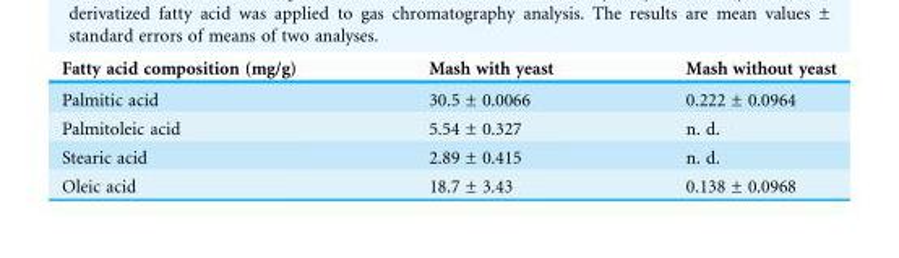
<table><thead><tr><td>Fatty acid composition (mg/g)</td><td>Mash with yeast</td><td>Mash without yeast</td></tr></thead><tbody><tr><td>Palmitic acid</td><td>30.5 ± 0.0066</td><td>0.222 ± 0.0964</td></tr><tr><td>Palmitoleic acid</td><td>5.54 ± 0.327</td><td>n. d.</td></tr><tr><td>Stearic acid</td><td>2.89 ± 0.415</td><td>n. d.</td></tr><tr><td>Oleic acid</td><td>18.7 ± 3.43</td><td>0.138 ± 0.0968</td></tr></tbody></table>